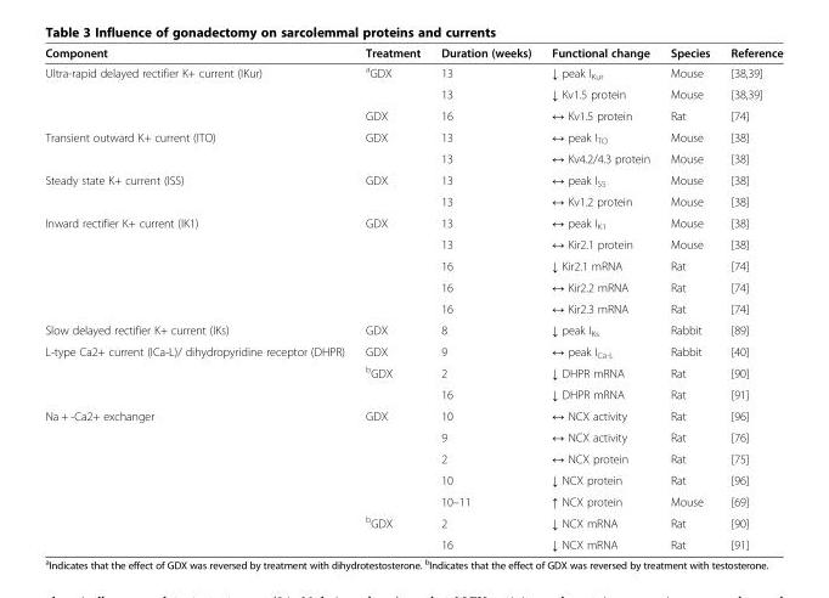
<table><thead><tr><td>Component</td><td>Treatment</td><td>Duration (weeks)</td><td>Functional change</td><td>Species</td><td>Reference</td></tr></thead><tbody><tr><td rowspan="3">Ultra-rapid delayed rectifier K+ current (IKur)</td><td rowspan="2"><sup>a</sup>GDX</td><td>13</td><td>↓ peak I<sub>Kur</sub></td><td>Mouse</td><td>[38,39]</td></tr><tr><td>13</td><td>↓ Kv1.5 protein</td><td>Mouse</td><td>[38,39]</td></tr><tr><td>GDX</td><td>16</td><td>↔ Kv1.5 protein</td><td>Rat</td><td>[74]</td></tr><tr><td rowspan="2">Transient outward K+ current (ITO)</td><td rowspan="2">GDX</td><td>13</td><td>↔ peak I<sub>TO</sub></td><td>Mouse</td><td>[38]</td></tr><tr><td>13</td><td>↔ Kv4.2/4.3 protein</td><td>Mouse</td><td>[38]</td></tr><tr><td rowspan="2">Steady state K+ current (ISS)</td><td rowspan="2">GDX</td><td>13</td><td>↔ peak I<sub>SS</sub></td><td>Mouse</td><td>[38]</td></tr><tr><td>13</td><td>↔ Kv1.2 protein</td><td>Mouse</td><td>[38]</td></tr><tr><td rowspan="5">Inward rectifier K+ current (IK1)</td><td rowspan="5">GDX</td><td>13</td><td>↔ peak I<sub>K1</sub></td><td>Mouse</td><td>[38]</td></tr><tr><td>13</td><td>↔ Kir2.1 protein</td><td>Mouse</td><td>[38]</td></tr><tr><td>16</td><td>↓ Kir2.1 mRNA</td><td>Rat</td><td>[74]</td></tr><tr><td>16</td><td>↔ Kir2.2 mRNA</td><td>Rat</td><td>[74]</td></tr><tr><td>16</td><td>↔ Kir2.3 mRNA</td><td>Rat</td><td>[74]</td></tr><tr><td>Slow delayed rectifier K+ current (IKs)</td><td>GDX</td><td>8</td><td>↓ peak I<sub>Ks</sub></td><td>Rabbit</td><td>[89]</td></tr><tr><td rowspan="3">L-type Ca2+ current (ICa-L)/ dihydropyridine receptor (DHPR)</td><td>GDX</td><td>9</td><td>↔ peak I<sub>Ca-L</sub></td><td>Rabbit</td><td>[40]</td></tr><tr><td rowspan="2"><sup>b</sup>GDX</td><td>2</td><td>↓ DHPR mRNA</td><td>Rat</td><td>[90]</td></tr><tr><td>16</td><td>↓ DHPR mRNA</td><td>Rat</td><td>[91]</td></tr><tr><td rowspan="7">Na + -Ca2+ exchanger</td><td rowspan="4">GDX</td><td>10</td><td>↔ NCX activity</td><td>Rat</td><td>[96]</td></tr><tr><td>9</td><td>↔ NCX activity</td><td>Rat</td><td>[76]</td></tr><tr><td>2</td><td>↔ NCX protein</td><td>Rat</td><td>[75]</td></tr><tr><td>10</td><td>↓ NCX protein</td><td>Rat</td><td>[96]</td></tr><tr><td></td><td>10–11</td><td>↑ NCX protein</td><td>Mouse</td><td>[69]</td></tr><tr><td rowspan="2"><sup>b</sup>GDX</td><td>2</td><td>↓ NCX mRNA</td><td>Rat</td><td>[90]</td></tr><tr><td>16</td><td>↓ NCX mRNA</td><td>Rat</td><td>[91]</td></tr></tbody></table>